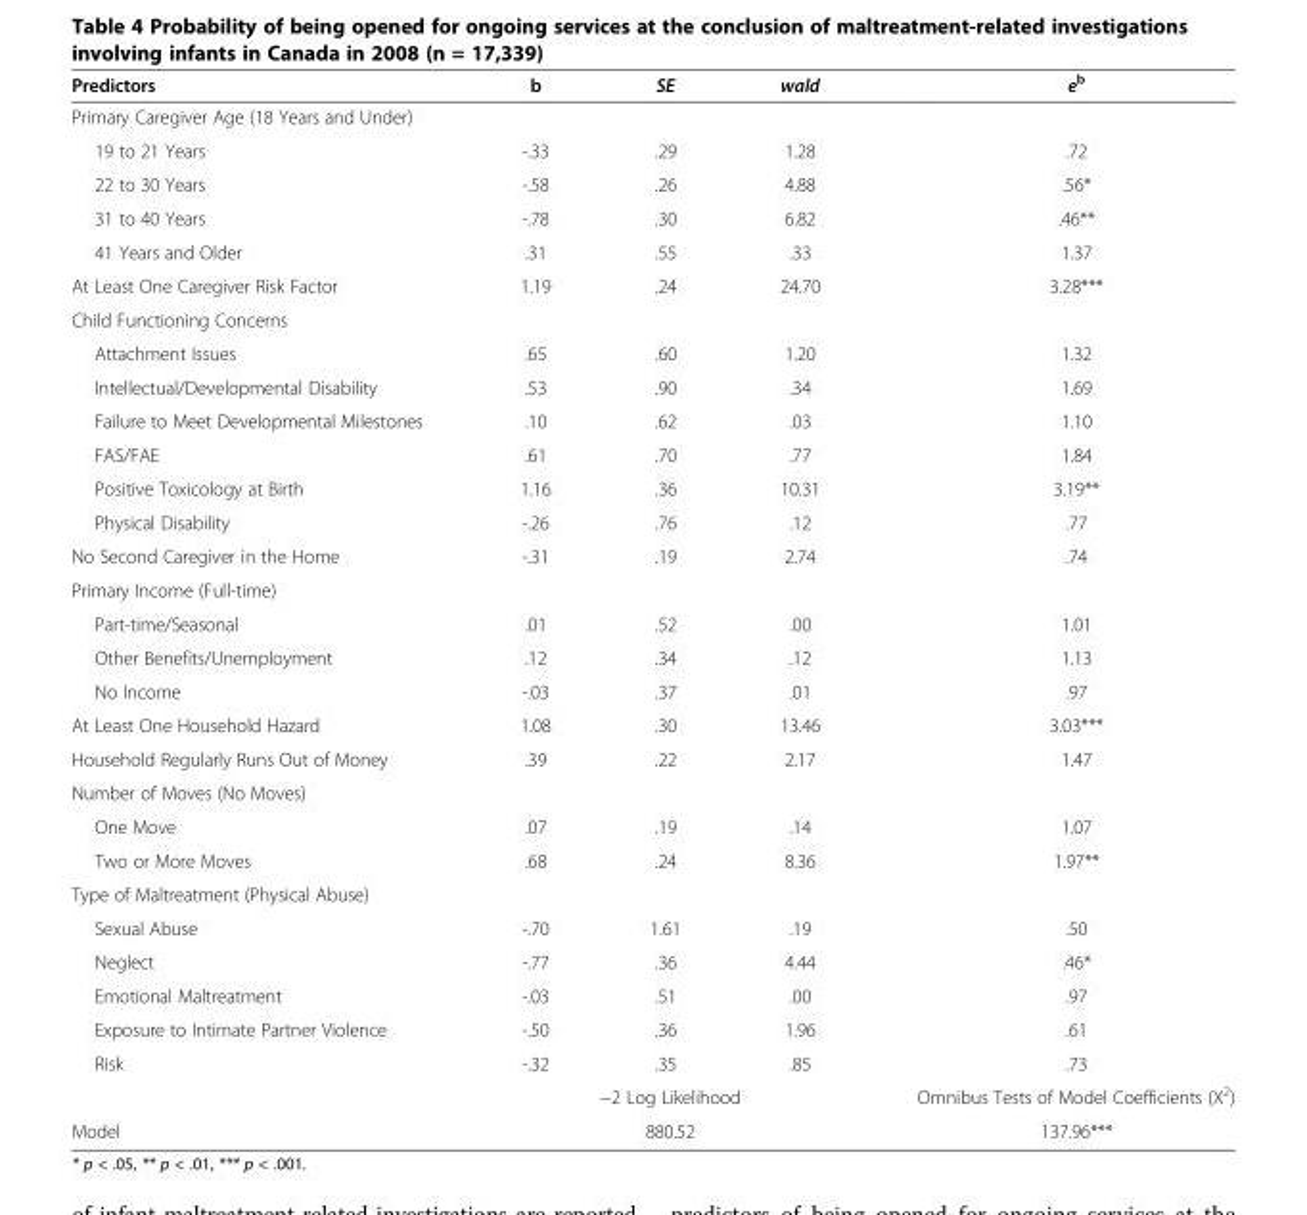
<table><thead><tr><td>Predictors</td><td>b</td><td>SE</td><td>wald</td><td>e<sup>b</sup></td></tr></thead><tbody><tr><td colspan="5">Primary Caregiver Age (18 Years and Under)</td></tr><tr><td>19 to 21 Years</td><td>-.33</td><td>.29</td><td>1.28</td><td>.72</td></tr><tr><td>22 to 30 Years</td><td>-.58</td><td>.26</td><td>4.88</td><td>.56*</td></tr><tr><td>31 to 40 Years</td><td>-.78</td><td>.30</td><td>6.82</td><td>.46**</td></tr><tr><td>41 Years and Older</td><td>.31</td><td>.55</td><td>.33</td><td>1.37</td></tr><tr><td>At Least One Caregiver Risk Factor</td><td>1.19</td><td>.24</td><td>24.70</td><td>3.28***</td></tr><tr><td colspan="5">Child Functioning Concerns</td></tr><tr><td>Attachment Issues</td><td>.65</td><td>.60</td><td>1.20</td><td>1.32</td></tr><tr><td>Intellectual/Developmental Disability</td><td>.53</td><td>.90</td><td>.34</td><td>1.69</td></tr><tr><td>Failure to Meet Developmental Milestones</td><td>.10</td><td>.62</td><td>.03</td><td>1.10</td></tr><tr><td>FAS/FAE</td><td>.61</td><td>.70</td><td>.77</td><td>1.84</td></tr><tr><td>Positive Toxicology at Birth</td><td>1.16</td><td>.36</td><td>10.31</td><td>3.19**</td></tr><tr><td>Physical Disability</td><td>-.26</td><td>.76</td><td>.12</td><td>.77</td></tr><tr><td>No Second Caregiver in the Home</td><td>-.31</td><td>.19</td><td>2.74</td><td>.74</td></tr><tr><td colspan="5">Primary Income (Full-time)</td></tr><tr><td>Part-time/Seasonal</td><td>.01</td><td>.52</td><td>.00</td><td>1.01</td></tr><tr><td>Other Benefits/Unemployment</td><td>.12</td><td>.34</td><td>.12</td><td>1.13</td></tr><tr><td>No Income</td><td>-.03</td><td>.37</td><td>.01</td><td>.97</td></tr><tr><td>At Least One Household Hazard</td><td>1.08</td><td>.30</td><td>13.46</td><td>3.03***</td></tr><tr><td>Household Regularly Runs Out of Money</td><td>.39</td><td>.22</td><td>2.17</td><td>1.47</td></tr><tr><td colspan="5">Number of Moves (No Moves)</td></tr><tr><td>One Move</td><td>.07</td><td>.19</td><td>.14</td><td>1.07</td></tr><tr><td>Two or More Moves</td><td>.68</td><td>.24</td><td>8.36</td><td>1.97**</td></tr><tr><td colspan="5">Type of Maltreatment (Physical Abuse)</td></tr><tr><td>Sexual Abuse</td><td>-.70</td><td>1.61</td><td>.19</td><td>.50</td></tr><tr><td>Neglect</td><td>-.77</td><td>.36</td><td>4.44</td><td>.46*</td></tr><tr><td>Emotional Maltreatment</td><td>-.03</td><td>.51</td><td>.00</td><td>.97</td></tr><tr><td>Exposure to Intimate Partner Violence</td><td>-.50</td><td>.36</td><td>1.96</td><td>.61</td></tr><tr><td rowspan="2">Risk</td><td>-.32</td><td>.35</td><td>.85</td><td>.73</td></tr><tr><td colspan="3">−2 Log Likelihood</td><td>Omnibus Tests of Model Coefficients (X<sup>2</sup>)</td></tr><tr><td>Model</td><td colspan="3">880.52</td><td>137.96***</td></tr></tbody></table>